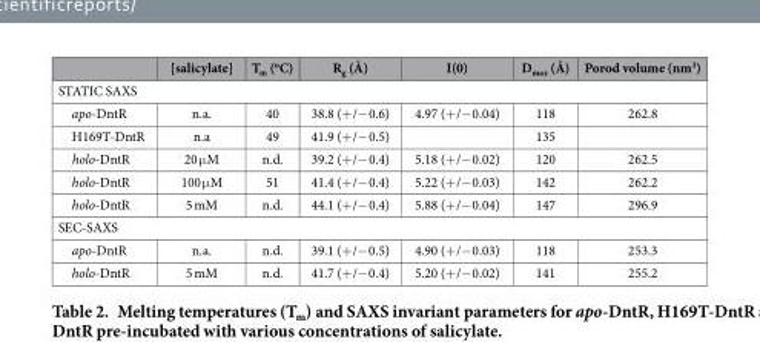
<table><thead><tr><td></td><td>[salicylate]</td><td>T<sub>m</sub> (<sup>o</sup>C)</td><td>R<sub>g</sub> (Å)</td><td>I(0)</td><td>D<sub>max</sub> (Å)</td><td>Porod volume (nm<sup>3</sup>)</td></tr></thead><tbody><tr><td colspan="7">STATIC SAXS</td></tr><tr><td>apo-DntR</td><td>n.a.</td><td>40</td><td>38.8 (+ /− 0.6)</td><td>4.97 (+ /− 0.04)</td><td>118</td><td>262.8</td></tr><tr><td>H169T-DntR</td><td>n.a</td><td>49</td><td>41.9 (+ /− 0.5)</td><td></td><td>135</td><td></td></tr><tr><td>holo-DntR</td><td>20 μ M</td><td>n.d.</td><td>39.2 (+ /− 0.4)</td><td>5.18 (+ /− 0.02)</td><td>120</td><td>262.5</td></tr><tr><td>holo-DntR</td><td>100 μ M</td><td>51</td><td>41.4 (+ /− 0.4)</td><td>5.22 (+ /− 0.03)</td><td>142</td><td>262.2</td></tr><tr><td>holo-DntR</td><td>5 mM</td><td>n.d.</td><td>44.1 (+ /− 0.4)</td><td>5.88 (+ /− 0.04)</td><td>147</td><td>296.9</td></tr><tr><td colspan="7">SEC-SAXS</td></tr><tr><td>apo-DntR</td><td>n.a.</td><td>n.d.</td><td>39.1 (+ /− 0.5)</td><td>4.90 (+ /− 0.03)</td><td>118</td><td>253.3</td></tr><tr><td>holo-DntR</td><td>5 mM</td><td>n.d.</td><td>41.7 (+ /− 0.4)</td><td>5.20 (+ /− 0.02)</td><td>141</td><td>255.2</td></tr></tbody></table>